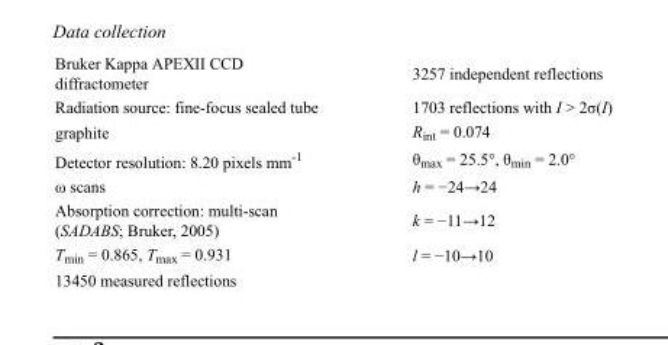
<table><tbody><tr><td>Bruker Kappa APEXII CCD diffractometer</td><td>3257 independent reflections</td></tr><tr><td>Radiation source: fine-focus sealed tube</td><td>1703 reflections with I &gt; 2σ(I)</td></tr><tr><td>graphite</td><td>R<sub>int</sub> = 0.074</td></tr><tr><td>Detector resolution: 8.20 pixels mm<sup>-1</sup></td><td>θ<sub>max</sub> = 25.5°, θ<sub>min</sub> = 2.0°</td></tr><tr><td>ω scans</td><td>h = −24→24</td></tr><tr><td>Absorption correction: multi-scan (SADABS; Bruker, 2005)</td><td>k = −11→12</td></tr><tr><td>T<sub>min</sub> = 0.865, T<sub>max</sub> = 0.931</td><td>l = −10→10</td></tr><tr><td>13450 measured reflections</td><td></td></tr></tbody></table>